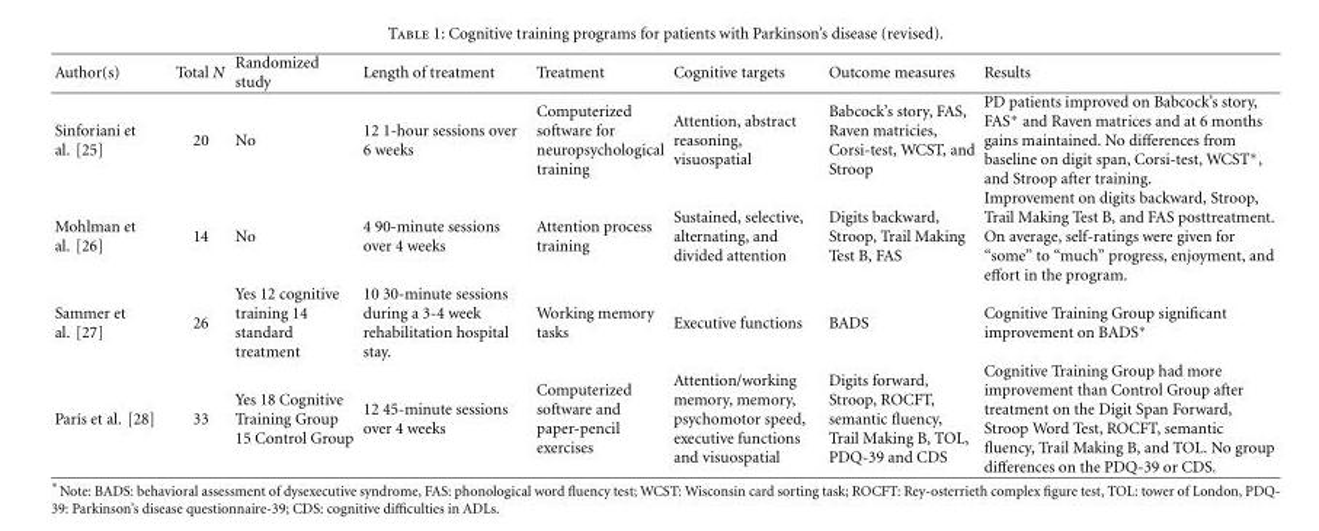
<table><thead><tr><td>Author(s)</td><td>Total N</td><td>Randomized study</td><td>Length of treatment</td><td>Treatment</td><td>Cognitive targets</td><td>Outcome measures</td><td>Results</td></tr></thead><tbody><tr><td>Sinforiani et al. [25]</td><td>20</td><td>No</td><td>12 1-hour sessions over 6 weeks</td><td>Computerized software for neuropsychological training</td><td>Attention, abstract reasoning, visuospatial</td><td>Babcock’s story, FAS, Raven matricies, Corsi-test, WCST, and Stroop</td><td>PD patients improved on Babcock’s story, FAS∗ and Raven matrices and at 6 months gains maintained. No differences from baseline on digit span, Corsi-test, WCST∗, and Stroop after training.</td></tr><tr><td>Mohlman et al. [26]</td><td>14</td><td>No</td><td>4 90-minute sessions over 4 weeks</td><td>Attention process training</td><td>Sustained, selective, alternating, and divided attention</td><td>Digits backward, Stroop, Trail Making Test B, FAS</td><td>Improvement on digits backward, Stroop, Trail Making Test B, and FAS posttreatment. On average, self-ratings were given for “some” to “much” progress, enjoyment, and effort in the program.</td></tr><tr><td>Sammer et al. [27]</td><td>26</td><td>Yes 12 cognitive training 14 standard treatment</td><td>10 30-minute sessions during a 3-4 week rehabilitation hospital stay.</td><td>Working memory tasks</td><td>Executive functions</td><td>BADS</td><td>Cognitive Training Group significant improvement on BADS∗</td></tr><tr><td>Par´ıs et al. [28]</td><td>33</td><td>Yes 18 Cognitive Training Group 15 Control Group</td><td>12 45-minute sessions over 4 weeks</td><td>Computerized software and paper-pencil exercises</td><td>Attention/working memory, memory, psychomotor speed, executive functions and visuospatial</td><td>Digits forward, Stroop, ROCFT, semantic fluency, Trail Making B, TOL, PDQ-39 and CDS</td><td>Cognitive Training Group had more improvement than Control Group after treatment on the Digit Span Forward, Stroop Word Test, ROCFT, semantic fluency, Trail Making B, and TOL. No group differences on the PDQ-39 or CDS.</td></tr></tbody></table>